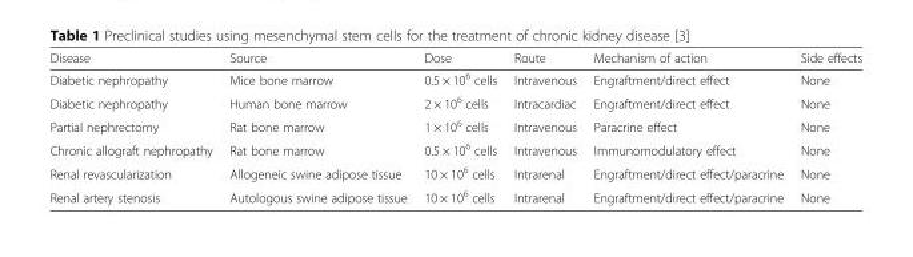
<table><thead><tr><td>Disease</td><td>Source</td><td>Dose</td><td>Route</td><td>Mechanism of action</td><td>Side effects</td></tr></thead><tbody><tr><td>Diabetic nephropathy</td><td>Mice bone marrow</td><td>0.5 × 10<sup>6</sup> cells</td><td>Intravenous</td><td>Engraftment/direct effect</td><td>None</td></tr><tr><td>Diabetic nephropathy</td><td>Human bone marrow</td><td>2 × 10<sup>6</sup> cells</td><td>Intracardiac</td><td>Engraftment/direct effect</td><td>None</td></tr><tr><td>Partial nephrectomy</td><td>Rat bone marrow</td><td>1 × 10<sup>6</sup> cells</td><td>Intravenous</td><td>Paracrine effect</td><td>None</td></tr><tr><td>Chronic allograft nephropathy</td><td>Rat bone marrow</td><td>0.5 × 10<sup>6</sup> cells</td><td>Intravenous</td><td>Immunomodulatory effect</td><td>None</td></tr><tr><td>Renal revascularization</td><td>Allogeneic swine adipose tissue</td><td>10 × 10<sup>6</sup> cells</td><td>Intrarenal</td><td>Engraftment/direct effect/paracrine</td><td>None</td></tr><tr><td>Renal artery stenosis</td><td>Autologous swine adipose tissue</td><td>10 × 10<sup>6</sup> cells</td><td>Intrarenal</td><td>Engraftment/direct effect/paracrine</td><td>None</td></tr></tbody></table>